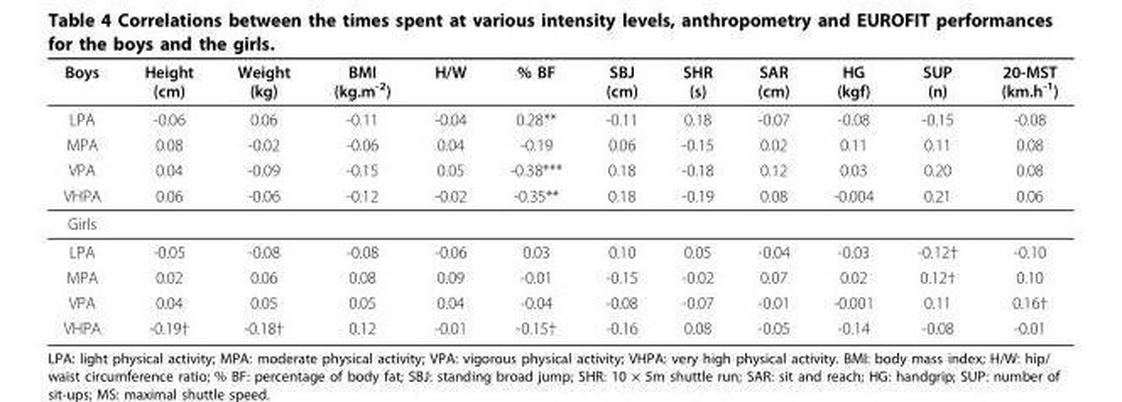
<table><thead><tr><td>Boys</td><td>Height (cm)</td><td>Weight (kg)</td><td>BMI (kg.m<sup>-2</sup>)</td><td>H/W</td><td>% BF</td><td>SBJ (cm)</td><td>SHR (s)</td><td>SAR (cm)</td><td>HG (kgf)</td><td>SUP (n)</td><td>20-MST (km.h<sup>-1</sup>)</td></tr></thead><tbody><tr><td>LPA</td><td>-0.06</td><td>0.06</td><td>-0.11</td><td>-0.04</td><td>0.28**</td><td>-0.11</td><td>0.18</td><td>-0.07</td><td>-0.08</td><td>-0.15</td><td>-0.08</td></tr><tr><td>MPA</td><td>0.08</td><td>-0.02</td><td>-0.06</td><td>0.04</td><td>-0.19</td><td>0.06</td><td>-0.15</td><td>0.02</td><td>0.11</td><td>0.11</td><td>0.08</td></tr><tr><td>VPA</td><td>0.04</td><td>-0.09</td><td>-0.15</td><td>0.05</td><td>-0.38***</td><td>0.18</td><td>-0.18</td><td>0.12</td><td>0.03</td><td>0.20</td><td>0.08</td></tr><tr><td>VHPA</td><td>0.06</td><td>-0.06</td><td>-0.12</td><td>-0.02</td><td>-0.35**</td><td>0.18</td><td>-0.19</td><td>0.08</td><td>-0.004</td><td>0.21</td><td>0.06</td></tr><tr><td colspan="12">Girls</td></tr><tr><td>LPA</td><td>-0.05</td><td>-0.08</td><td>-0.08</td><td>-0.06</td><td>0.03</td><td>0.10</td><td>0.05</td><td>-0.04</td><td>-0.03</td><td>-0.12†</td><td>-0.10</td></tr><tr><td>MPA</td><td>0.02</td><td>0.06</td><td>0.08</td><td>0.09</td><td>-0.01</td><td>-0.15</td><td>-0.02</td><td>0.07</td><td>0.02</td><td>0.12†</td><td>0.10</td></tr><tr><td>VPA</td><td>0.04</td><td>0.05</td><td>0.05</td><td>0.04</td><td>-0.04</td><td>-0.08</td><td>-0.07</td><td>-0.01</td><td>-0.001</td><td>0.11</td><td>0.16†</td></tr><tr><td>VHPA</td><td>-0.19†</td><td>-0.18†</td><td>0.12</td><td>-0.01</td><td>-0.15†</td><td>-0.16</td><td>0.08</td><td>-0.05</td><td>-0.14</td><td>-0.08</td><td>-0.01</td></tr></tbody></table>